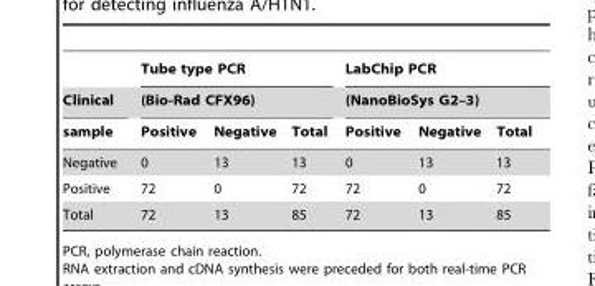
<table><thead><tr><td rowspan="3">Clinical sample</td><td rowspan="2" colspan="3">Tube type PCR (Bio-Rad CFX96)</td><td rowspan="2" colspan="3">LabChip PCR (NanoBioSys G2–3)</td></tr><tr></tr><tr><td>Positive</td><td>Negative</td><td>Total</td><td>Positive</td><td>Negative</td><td>Total</td></tr></thead><tbody><tr><td>Negative</td><td>0</td><td>13</td><td>13</td><td>0</td><td>13</td><td>13</td></tr><tr><td>Positive</td><td>72</td><td>0</td><td>72</td><td>72</td><td>0</td><td>72</td></tr><tr><td>Total</td><td>72</td><td>13</td><td>85</td><td>72</td><td>13</td><td>85</td></tr></tbody></table>